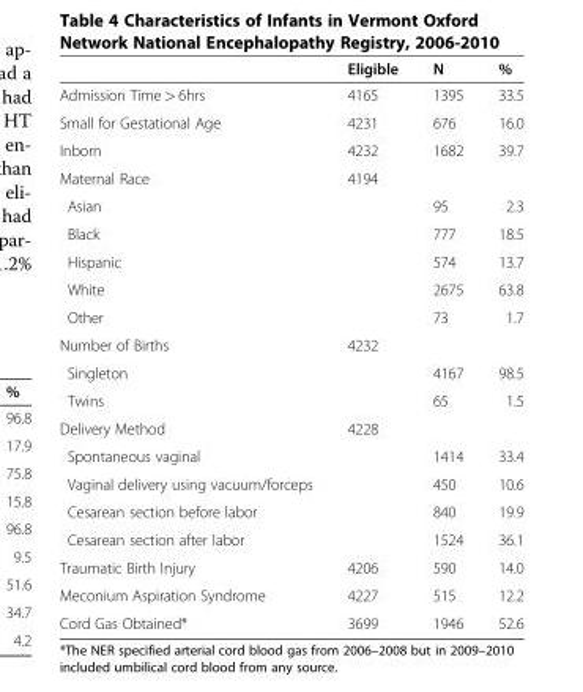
<table><thead><tr><td></td><td>Eligible</td><td>N</td><td>%</td></tr></thead><tbody><tr><td>Admission Time &gt; 6hrs</td><td>4165</td><td>1395</td><td>33.5</td></tr><tr><td>Small for Gestational Age</td><td>4231</td><td>676</td><td>16.0</td></tr><tr><td>Inborn</td><td>4232</td><td>1682</td><td>39.7</td></tr><tr><td>Maternal Race</td><td>4194</td><td></td><td></td></tr><tr><td>Asian</td><td></td><td>95</td><td>2.3</td></tr><tr><td>Black</td><td></td><td>777</td><td>18.5</td></tr><tr><td>Hispanic</td><td></td><td>574</td><td>13.7</td></tr><tr><td>White</td><td></td><td>2675</td><td>63.8</td></tr><tr><td>Other</td><td></td><td>73</td><td>1.7</td></tr><tr><td>Number of Births</td><td>4232</td><td></td><td></td></tr><tr><td>Singleton</td><td></td><td>4167</td><td>98.5</td></tr><tr><td>Twins</td><td></td><td>65</td><td>1.5</td></tr><tr><td>Delivery Method</td><td>4228</td><td></td><td></td></tr><tr><td>Spontaneous vaginal</td><td></td><td>1414</td><td>33.4</td></tr><tr><td>Vaginal delivery using vacuum/forceps</td><td></td><td>450</td><td>10.6</td></tr><tr><td>Cesarean section before labor</td><td></td><td>840</td><td>19.9</td></tr><tr><td>Cesarean section after labor</td><td></td><td>1524</td><td>36.1</td></tr><tr><td>Traumatic Birth Injury</td><td>4206</td><td>590</td><td>14.0</td></tr><tr><td>Meconium Aspiration Syndrome</td><td>4227</td><td>515</td><td>12.2</td></tr><tr><td>Cord Gas Obtained*</td><td>3699</td><td>1946</td><td>52.6</td></tr></tbody></table>